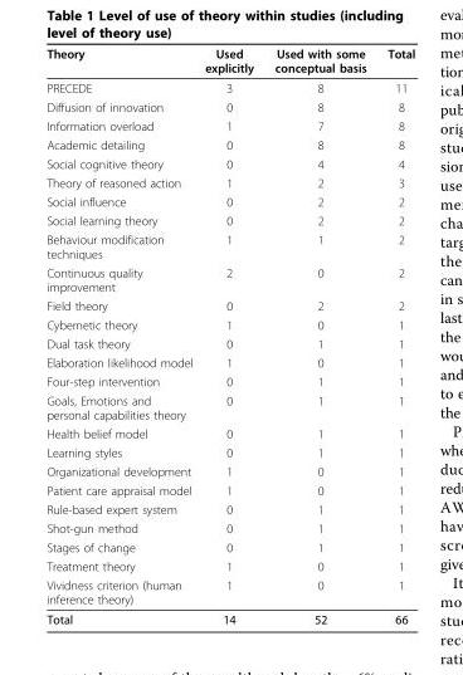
<table><thead><tr><td>Theory</td><td>Used explicitly</td><td>Used with some conceptual basis</td><td>Total</td></tr></thead><tbody><tr><td>PRECEDE</td><td>3</td><td>8</td><td>11</td></tr><tr><td>Diffusion of innovation</td><td>0</td><td>8</td><td>8</td></tr><tr><td>Information overload</td><td>1</td><td>7</td><td>8</td></tr><tr><td>Academic detailing</td><td>0</td><td>8</td><td>8</td></tr><tr><td>Social cognitive theory</td><td>0</td><td>4</td><td>4</td></tr><tr><td>Theory of reasoned action</td><td>1</td><td>2</td><td>3</td></tr><tr><td>Social influence</td><td>0</td><td>2</td><td>2</td></tr><tr><td>Social learning theory</td><td>0</td><td>2</td><td>2</td></tr><tr><td>Behaviour modification techniques</td><td>1</td><td>1</td><td>2</td></tr><tr><td>Continuous quality improvement</td><td>2</td><td>0</td><td>2</td></tr><tr><td>Field theory</td><td>0</td><td>2</td><td>2</td></tr><tr><td>Cybernetic theory</td><td>1</td><td>0</td><td>1</td></tr><tr><td>Dual task theory</td><td>0</td><td>1</td><td>1</td></tr><tr><td>Elaboration likelihood model</td><td>1</td><td>0</td><td>1</td></tr><tr><td>Four-step intervention</td><td>0</td><td>1</td><td>1</td></tr><tr><td>Goals, Emotions and personal capabilities theory</td><td>0</td><td>1</td><td>1</td></tr><tr><td>Health belief model</td><td>0</td><td>1</td><td>1</td></tr><tr><td>Learning styles</td><td>0</td><td>1</td><td>1</td></tr><tr><td>Organizational development</td><td>1</td><td>0</td><td>1</td></tr><tr><td>Patient care appraisal model</td><td>1</td><td>0</td><td>1</td></tr><tr><td>Rule-based expert system</td><td>0</td><td>1</td><td>1</td></tr><tr><td>Shot-gun method</td><td>0</td><td>1</td><td>1</td></tr><tr><td>Stages of change</td><td>0</td><td>1</td><td>1</td></tr><tr><td>Treatment theory</td><td>1</td><td>0</td><td>1</td></tr><tr><td>Vividness criterion (human inference theory)</td><td>1</td><td>0</td><td>1</td></tr><tr><td>Total</td><td>14</td><td>52</td><td>66</td></tr></tbody></table>